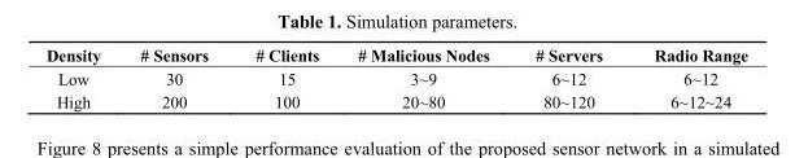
<table><thead><tr><td>Density</td><td># Sensors</td><td># Clients</td><td># Malicious Nodes</td><td># Servers</td><td>Radio Range</td></tr></thead><tbody><tr><td>Low</td><td>30</td><td>15</td><td>3~9</td><td>6~12</td><td>6~12</td></tr><tr><td>High</td><td>200</td><td>100</td><td>20~80</td><td>80~120</td><td>6~12~24</td></tr></tbody></table>